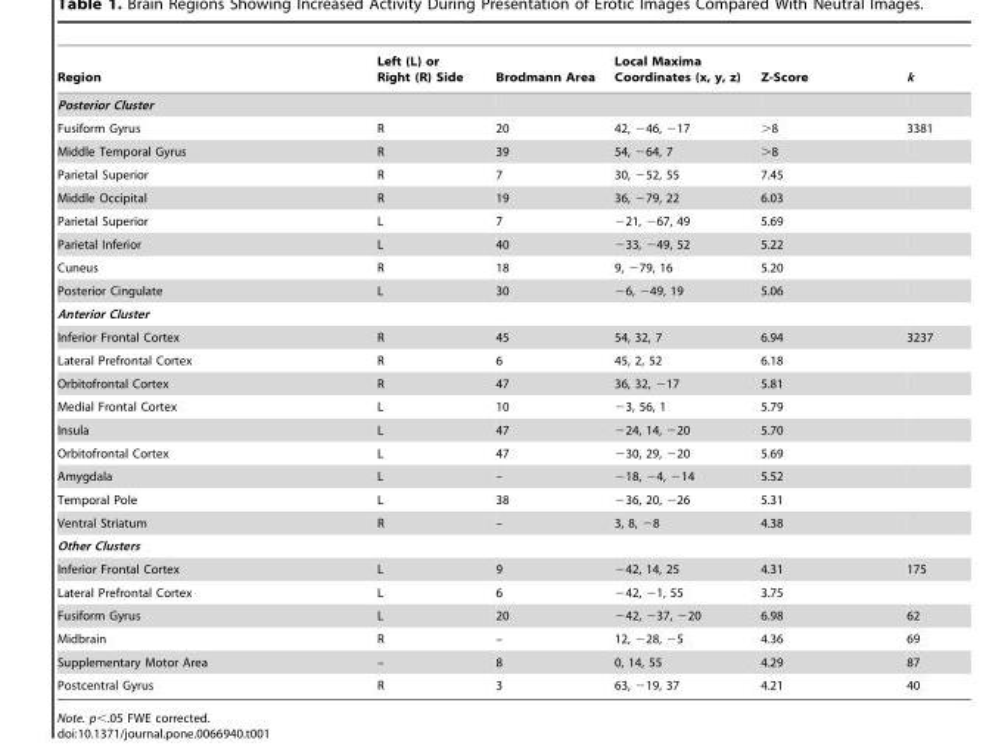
<table><thead><tr><td>Region</td><td>Left (L) or Right (R) Side</td><td>Brodmann Area</td><td>Local Maxima Coordinates (x, y, z)</td><td>Z-Score</td><td>k</td></tr></thead><tbody><tr><td colspan="6">Posterior Cluster</td></tr><tr><td>Fusiform Gyrus</td><td>R</td><td>20</td><td>42, −46, −17</td><td>&gt;8</td><td>3381</td></tr><tr><td>Middle Temporal Gyrus</td><td>R</td><td>39</td><td>54, −64, 7</td><td>&gt;8</td><td></td></tr><tr><td>Parietal Superior</td><td>R</td><td>7</td><td>30, −52, 55</td><td>7.45</td><td></td></tr><tr><td>Middle Occipital</td><td>R</td><td>19</td><td>36, −79, 22</td><td>6.03</td><td></td></tr><tr><td>Parietal Superior</td><td>L</td><td>7</td><td>−21, −67, 49</td><td>5.69</td><td></td></tr><tr><td>Parietal Inferior</td><td>L</td><td>40</td><td>−33, −49, 52</td><td>5.22</td><td></td></tr><tr><td>Cuneus</td><td>R</td><td>18</td><td>9, −79, 16</td><td>5.20</td><td></td></tr><tr><td>Posterior Cingulate</td><td>L</td><td>30</td><td>−6, −49, 19</td><td>5.06</td><td></td></tr><tr><td colspan="6">Anterior Cluster</td></tr><tr><td>Inferior Frontal Cortex</td><td>R</td><td>45</td><td>54, 32, 7</td><td>6.94</td><td>3237</td></tr><tr><td>Lateral Prefrontal Cortex</td><td>R</td><td>6</td><td>45, 2, 52</td><td>6.18</td><td></td></tr><tr><td>Orbitofrontal Cortex</td><td>R</td><td>47</td><td>36, 32, −17</td><td>5.81</td><td></td></tr><tr><td>Medial Frontal Cortex</td><td>L</td><td>10</td><td>−3, 56, 1</td><td>5.79</td><td></td></tr><tr><td>Insula</td><td>L</td><td>47</td><td>−24, 14, −20</td><td>5.70</td><td></td></tr><tr><td>Orbitofrontal Cortex</td><td>L</td><td>47</td><td>−30, 29, −20</td><td>5.69</td><td></td></tr><tr><td>Amygdala</td><td>L</td><td>–</td><td>−18, −4, −14</td><td>5.52</td><td></td></tr><tr><td>Temporal Pole</td><td>L</td><td>38</td><td>−36, 20, −26</td><td>5.31</td><td></td></tr><tr><td>Ventral Striatum</td><td>R</td><td>–</td><td>3, 8, −8</td><td>4.38</td><td></td></tr><tr><td colspan="6">Other Clusters</td></tr><tr><td>Inferior Frontal Cortex</td><td>L</td><td>9</td><td>−42, 14, 25</td><td>4.31</td><td>175</td></tr><tr><td>Lateral Prefrontal Cortex</td><td>L</td><td>6</td><td>−42, −1, 55</td><td>3.75</td><td></td></tr><tr><td>Fusiform Gyrus</td><td>L</td><td>20</td><td>−42, −37, −20</td><td>6.98</td><td>62</td></tr><tr><td>Midbrain</td><td>R</td><td>–</td><td>12, −28, −5</td><td>4.36</td><td>69</td></tr><tr><td>Supplementary Motor Area</td><td>–</td><td>8</td><td>0, 14, 55</td><td>4.29</td><td>87</td></tr><tr><td>Postcentral Gyrus</td><td>R</td><td>3</td><td>63, −19, 37</td><td>4.21</td><td>40</td></tr></tbody></table>